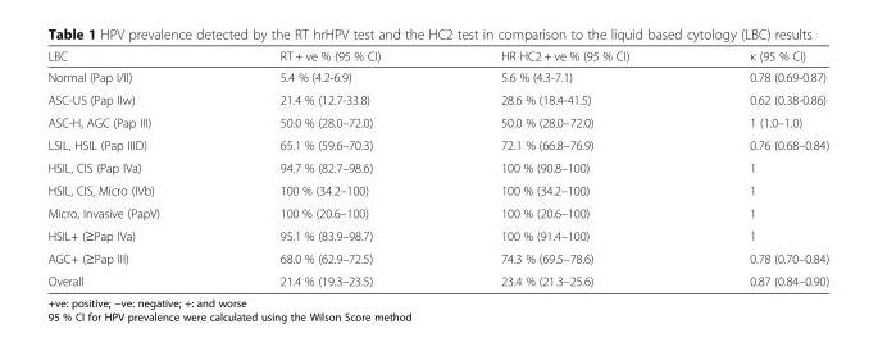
<table><thead><tr><td>LBC</td><td>RT + ve % (95 % CI)</td><td>HR HC2 + ve % (95 % CI)</td><td>κ (95 % CI)</td></tr></thead><tbody><tr><td>Normal (Pap I/II)</td><td>5.4 % (4.2-6.9)</td><td>5.6 % (4.3-7.1)</td><td>0.78 (0.69-0.87)</td></tr><tr><td>ASC-US (Pap IIw)</td><td>21.4 % (12.7-33.8)</td><td>28.6 % (18.4-41.5)</td><td>0.62 (0.38-0.86)</td></tr><tr><td>ASC-H, AGC (Pap III)</td><td>50.0 % (28.0–72.0)</td><td>50.0 % (28.0–72.0)</td><td>1 (1.0–1.0)</td></tr><tr><td>LSIL, HSIL (Pap IIID)</td><td>65.1 % (59.6–70.3)</td><td>72.1 % (66.8–76.9)</td><td>0.76 (0.68–0.84)</td></tr><tr><td>HSIL, CIS (Pap IVa)</td><td>94.7 % (82.7–98.6)</td><td>100 % (90.8–100)</td><td>1</td></tr><tr><td>HSIL, CIS, Micro (IVb)</td><td>100 % (34.2–100)</td><td>100 % (34.2–100)</td><td>1</td></tr><tr><td>Micro, Invasive (PapV)</td><td>100 % (20.6–100)</td><td>100 % (20.6–100)</td><td>1</td></tr><tr><td>HSIL+ (≥Pap IVa)</td><td>95.1 % (83.9–98.7)</td><td>100 % (91.4–100)</td><td>1</td></tr><tr><td>AGC+ (≥Pap III)</td><td>68.0 % (62.9–72.5)</td><td>74.3 % (69.5–78.6)</td><td>0.78 (0.70–0.84)</td></tr><tr><td>Overall</td><td>21.4 % (19.3–23.5)</td><td>23.4 % (21.3–25.6)</td><td>0.87 (0.84–0.90)</td></tr></tbody></table>